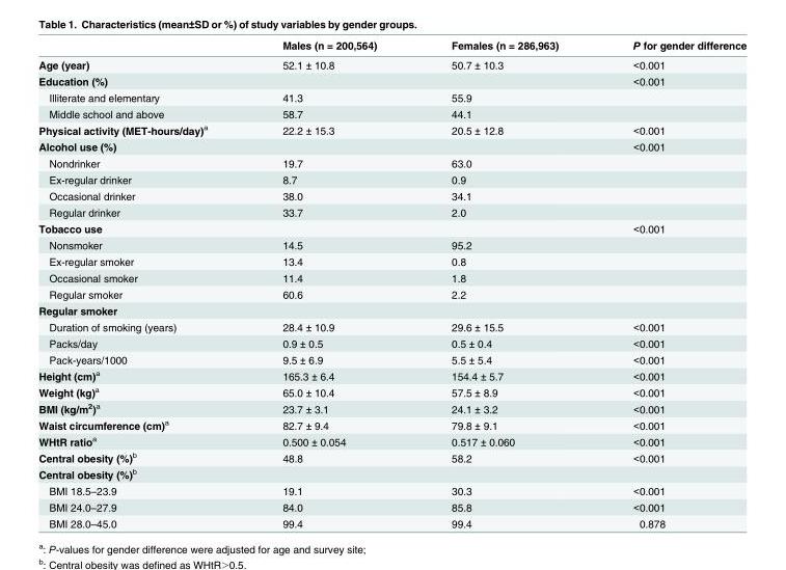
<table><thead><tr><td></td><td>Males (n = 200,564)</td><td>Females (n = 286,963)</td><td>P for gender difference</td></tr></thead><tbody><tr><td>Age (year)</td><td>52.1 ± 10.8</td><td>50.7 ± 10.3</td><td>&lt;0.001</td></tr><tr><td>Education (%)</td><td></td><td></td><td>&lt;0.001</td></tr><tr><td>Illiterate and elementary</td><td>41.3</td><td>55.9</td><td></td></tr><tr><td>Middle school and above</td><td>58.7</td><td>44.1</td><td></td></tr><tr><td>Physical activity (MET-hours/day)<sup>a</sup></td><td>22.2 ± 15.3</td><td>20.5 ± 12.8</td><td>&lt;0.001</td></tr><tr><td>Alcohol use (%)</td><td></td><td></td><td>&lt;0.001</td></tr><tr><td>Nondrinker</td><td>19.7</td><td>63.0</td><td></td></tr><tr><td>Ex-regular drinker</td><td>8.7</td><td>0.9</td><td></td></tr><tr><td>Occasional drinker</td><td>38.0</td><td>34.1</td><td></td></tr><tr><td>Regular drinker</td><td>33.7</td><td>2.0</td><td></td></tr><tr><td>Tobacco use</td><td></td><td></td><td>&lt;0.001</td></tr><tr><td>Nonsmoker</td><td>14.5</td><td>95.2</td><td></td></tr><tr><td>Ex-regular smoker</td><td>13.4</td><td>0.8</td><td></td></tr><tr><td>Occasional smoker</td><td>11.4</td><td>1.8</td><td></td></tr><tr><td>Regular smoker</td><td>60.6</td><td>2.2</td><td></td></tr><tr><td colspan="4">Regular smoker</td></tr><tr><td>Duration of smoking (years)</td><td>28.4 ± 10.9</td><td>29.6 ± 15.5</td><td>&lt;0.001</td></tr><tr><td>Packs/day</td><td>0.9 ± 0.5</td><td>0.5 ± 0.4</td><td>&lt;0.001</td></tr><tr><td>Pack-years/1000</td><td>9.5 ± 6.9</td><td>5.5 ± 5.4</td><td>&lt;0.001</td></tr><tr><td>Height (cm)<sup>a</sup></td><td>165.3 ± 6.4</td><td>154.4 ± 5.7</td><td>&lt;0.001</td></tr><tr><td>Weight (kg)<sup>a</sup></td><td>65.0 ± 10.4</td><td>57.5 ± 8.9</td><td>&lt;0.001</td></tr><tr><td>BMI (kg/m<sup>2</sup>)<sup>a</sup></td><td>23.7 ± 3.1</td><td>24.1 ± 3.2</td><td>&lt;0.001</td></tr><tr><td>Waist circumference (cm)<sup>a</sup></td><td>82.7 ± 9.4</td><td>79.8 ± 9.1</td><td>&lt;0.001</td></tr><tr><td>WHtR ratio<sup>a</sup></td><td>0.500 ± 0.054</td><td>0.517 ± 0.060</td><td>&lt;0.001</td></tr><tr><td>Central obesity (%)<sup>b</sup></td><td>48.8</td><td>58.2</td><td>&lt;0.001</td></tr><tr><td colspan="4">Central obesity (%)<sup>b</sup></td></tr><tr><td>BMI 18.5–23.9</td><td>19.1</td><td>30.3</td><td>&lt;0.001</td></tr><tr><td>BMI 24.0–27.9</td><td>84.0</td><td>85.8</td><td>&lt;0.001</td></tr><tr><td>BMI 28.0–45.0</td><td>99.4</td><td>99.4</td><td>0.878</td></tr></tbody></table>